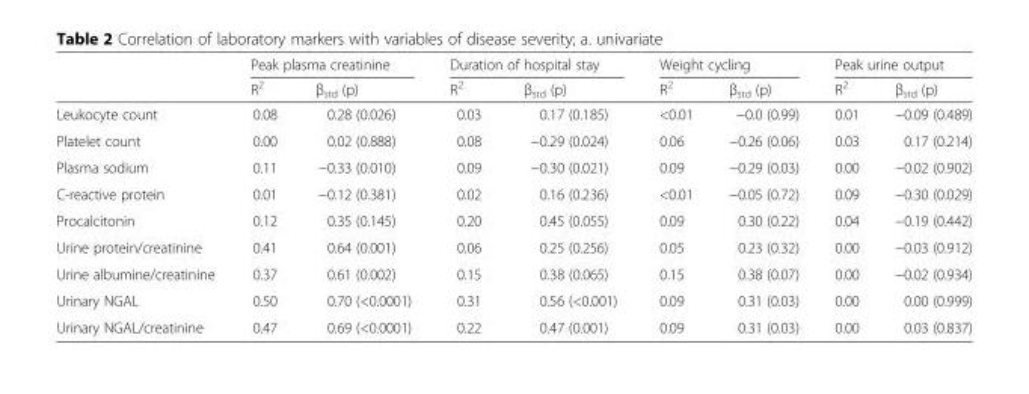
<table><thead><tr><td rowspan="2"></td><td colspan="2">Peak plasma creatinine</td><td colspan="2">Duration of hospital stay</td><td colspan="2">Weight cycling</td><td colspan="2">Peak urine output</td></tr><tr><td>R<sup>2</sup></td><td>β<sub>std</sub> (p)</td><td>R<sup>2</sup></td><td>β<sub>std</sub> (p)</td><td>R<sup>2</sup></td><td>β<sub>std</sub> (p)</td><td>R<sup>2</sup></td><td>β<sub>std</sub> (p)</td></tr></thead><tbody><tr><td>Leukocyte count</td><td>0.08</td><td>0.28 (0.026)</td><td>0.03</td><td>0.17 (0.185)</td><td>&lt;0.01</td><td>−0.0 (0.99)</td><td>0.01</td><td>−0.09 (0.489)</td></tr><tr><td>Platelet count</td><td>0.00</td><td>0.02 (0.888)</td><td>0.08</td><td>−0.29 (0.024)</td><td>0.06</td><td>−0.26 (0.06)</td><td>0.03</td><td>0.17 (0.214)</td></tr><tr><td>Plasma sodium</td><td>0.11</td><td>−0.33 (0.010)</td><td>0.09</td><td>−0.30 (0.021)</td><td>0.09</td><td>−0.29 (0.03)</td><td>0.00</td><td>−0.02 (0.902)</td></tr><tr><td>C-reactive protein</td><td>0.01</td><td>−0.12 (0.381)</td><td>0.02</td><td>0.16 (0.236)</td><td>&lt;0.01</td><td>−0.05 (0.72)</td><td>0.09</td><td>−0.30 (0.029)</td></tr><tr><td>Procalcitonin</td><td>0.12</td><td>0.35 (0.145)</td><td>0.20</td><td>0.45 (0.055)</td><td>0.09</td><td>0.30 (0.22)</td><td>0.04</td><td>−0.19 (0.442)</td></tr><tr><td>Urine protein/creatinine</td><td>0.41</td><td>0.64 (0.001)</td><td>0.06</td><td>0.25 (0.256)</td><td>0.05</td><td>0.23 (0.32)</td><td>0.00</td><td>−0.03 (0.912)</td></tr><tr><td>Urine albumine/creatinine</td><td>0.37</td><td>0.61 (0.002)</td><td>0.15</td><td>0.38 (0.065)</td><td>0.15</td><td>0.38 (0.07)</td><td>0.00</td><td>−0.02 (0.934)</td></tr><tr><td>Urinary NGAL</td><td>0.50</td><td>0.70 (&lt;0.0001)</td><td>0.31</td><td>0.56 (&lt;0.001)</td><td>0.09</td><td>0.31 (0.03)</td><td>0.00</td><td>0.00 (0.999)</td></tr><tr><td>Urinary NGAL/creatinine</td><td>0.47</td><td>0.69 (&lt;0.0001)</td><td>0.22</td><td>0.47 (0.001)</td><td>0.09</td><td>0.31 (0.03)</td><td>0.00</td><td>0.03 (0.837)</td></tr></tbody></table>